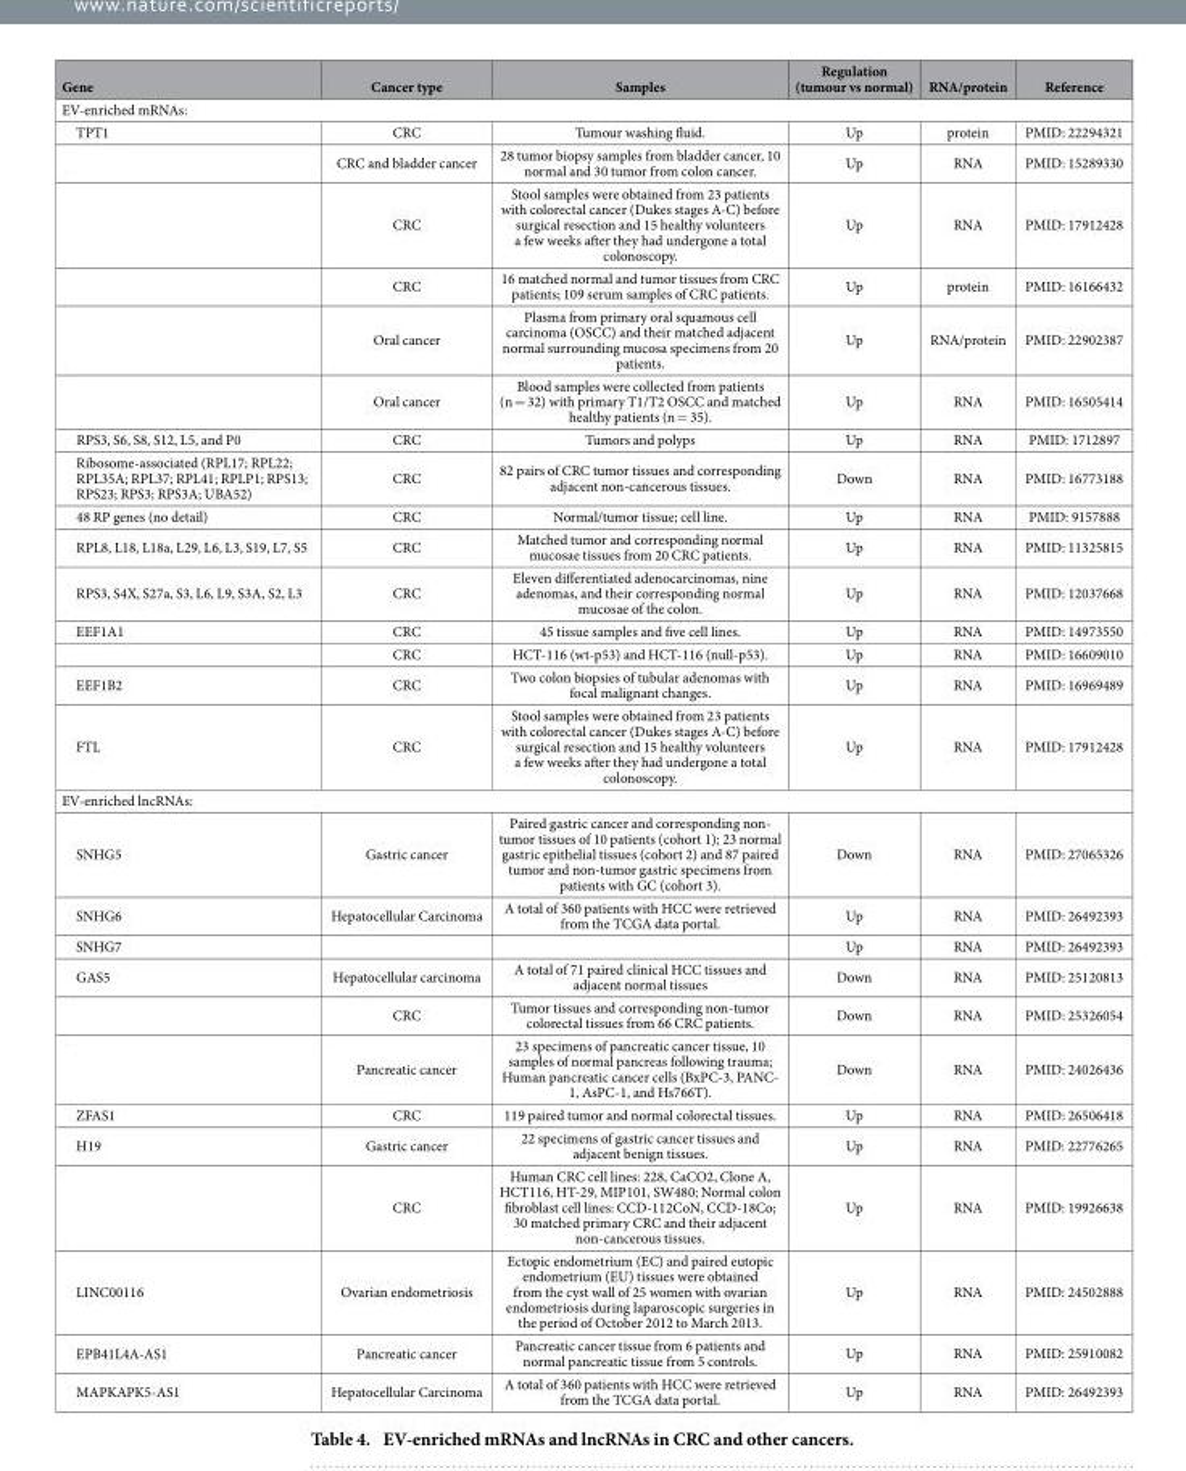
<table><thead><tr><td>Gene</td><td>Cancer type</td><td>Samples</td><td>Regulation (tumour vs normal)</td><td>RNA/protein</td><td>Reference</td></tr></thead><tbody><tr><td colspan="6">EV-enriched mRNAs:</td></tr><tr><td rowspan="6">TPT1</td><td>CRC</td><td>Tumour washing fluid.</td><td>Up</td><td>protein</td><td>PMID: 22294321</td></tr><tr><td>CRC and bladder cancer</td><td>28 tumor biopsy samples from bladder cancer, 10 normal and 30 tumor from colon cancer.</td><td>Up</td><td>RNA</td><td>PMID: 15289330</td></tr><tr><td>CRC</td><td>Stool samples were obtained from 23 patients with colorectal cancer (Dukes stages A-C) before surgical resection and 15 healthy volunteers a few weeks after they had undergone a total colonoscopy.</td><td>Up</td><td>RNA</td><td>PMID: 17912428</td></tr><tr><td>CRC</td><td>16 matched normal and tumor tissues from CRC patients; 109 serum samples of CRC patients.</td><td>Up</td><td>protein</td><td>PMID: 16166432</td></tr><tr><td>Oral cancer</td><td>Plasma from primary oral squamous cell carcinoma (OSCC) and their matched adjacent normal surrounding mucosa specimens from 20 patients.</td><td>Up</td><td>RNA/protein</td><td>PMID: 22902387</td></tr><tr><td>Oral cancer</td><td>Blood samples were collected from patients (n = 32) with primary T1/T2 OSCC and matched healthy patients (n = 35).</td><td>Up</td><td>RNA</td><td>PMID: 16505414</td></tr><tr><td>RPS3, S6, S8, S12, L5, and P0</td><td>CRC</td><td>Tumors and polyps</td><td>Up</td><td>RNA</td><td>PMID: 1712897</td></tr><tr><td>Ribosome-associated (RPL17; RPL22; RPL35A; RPL37; RPL41; RPLP1; RPS13; RPS23; RPS3; RPS3A; UBA52)</td><td>CRC</td><td>82 pairs of CRC tumor tissues and corresponding adjacent non-cancerous tissues.</td><td>Down</td><td>RNA</td><td>PMID: 16773188</td></tr><tr><td>48 RP genes (no detail)</td><td>CRC</td><td>Normal/tumor tissue; cell line.</td><td>Up</td><td>RNA</td><td>PMID: 9157888</td></tr><tr><td>RPL8, L18, L18a, L29, L6, L3, S19, L7, S5</td><td>CRC</td><td>Matched tumor and corresponding normal mucosae tissues from 20 CRC patients.</td><td>Up</td><td>RNA</td><td>PMID: 11325815</td></tr><tr><td>RPS3, S4X, S27a, S3, L6, L9, S3A, S2, L3</td><td>CRC</td><td>Eleven differentiated adenocarcinomas, nine adenomas, and their corresponding normal mucosae of the colon.</td><td>Up</td><td>RNA</td><td>PMID: 12037668</td></tr><tr><td rowspan="2">EEF1A1</td><td>CRC</td><td>45 tissue samples and five cell lines.</td><td>Up</td><td>RNA</td><td>PMID: 14973550</td></tr><tr><td>CRC</td><td>HCT-116 (wt-p53) and HCT-116 (null-p53).</td><td>Up</td><td>RNA</td><td>PMID: 16609010</td></tr><tr><td>EEF1B2</td><td>CRC</td><td>Two colon biopsies of tubular adenomas with focal malignant changes.</td><td>Up</td><td>RNA</td><td>PMID: 16969489</td></tr><tr><td>FTL</td><td>CRC</td><td>Stool samples were obtained from 23 patients with colorectal cancer (Dukes stages A-C) before surgical resection and 15 healthy volunteers a few weeks after they had undergone a total colonoscopy.</td><td>Up</td><td>RNA</td><td>PMID: 17912428</td></tr><tr><td colspan="6">EV-enriched lncRNAs:</td></tr><tr><td>SNHG5</td><td>Gastric cancer</td><td>Paired gastric cancer and corresponding non- tumor tissues of 10 patients (cohort 1); 23 normal gastric epithelial tissues (cohort 2) and 87 paired tumor and non-tumor gastric specimens from patients with GC (cohort 3).</td><td>Down</td><td>RNA</td><td>PMID: 27065326</td></tr><tr><td>SNHG6</td><td>Hepatocellular Carcinoma</td><td>A total of 360 patients with HCC were retrieved from the TCGA data portal.</td><td>Up</td><td>RNA</td><td>PMID: 26492393</td></tr><tr><td>SNHG7</td><td></td><td></td><td>Up</td><td>RNA</td><td>PMID: 26492393</td></tr><tr><td rowspan="3">GAS5</td><td>Hepatocellular carcinoma</td><td>A total of 71 paired clinical HCC tissues and adjacent normal tissues</td><td>Down</td><td>RNA</td><td>PMID: 25120813</td></tr><tr><td>CRC</td><td>Tumor tissues and corresponding non-tumor colorectal tissues from 66 CRC patients.</td><td>Down</td><td>RNA</td><td>PMID: 25326054</td></tr><tr><td>Pancreatic cancer</td><td>23 specimens of pancreatic cancer tissue, 10 samples of normal pancreas following trauma; Human pancreatic cancer cells (BxPC-3, PANC- 1, AsPC-1, and Hs766T).</td><td>Down</td><td>RNA</td><td>PMID: 24026436</td></tr><tr><td>ZFAS1</td><td>CRC</td><td>119 paired tumor and normal colorectal tissues.</td><td>Up</td><td>RNA</td><td>PMID: 26506418</td></tr><tr><td rowspan="2">H19</td><td>Gastric cancer</td><td>22 specimens of gastric cancer tissues and adjacent benign tissues.</td><td>Up</td><td>RNA</td><td>PMID: 22776265</td></tr><tr><td>CRC</td><td>Human CRC cell lines: 228, CaCO2, Clone A, HCT116, HT-29, MIP101, SW480; Normal colon fibroblast cell lines: CCD-112CoN, CCD-18Co; 30 matched primary CRC and their adjacent non-cancerous tissues.</td><td>Up</td><td>RNA</td><td>PMID: 19926638</td></tr><tr><td>LINC00116</td><td>Ovarian endometriosis</td><td>Ectopic endometrium (EC) and paired eutopic endometrium (EU) tissues were obtained from the cyst wall of 25 women with ovarian endometriosis during laparoscopic surgeries in the period of October 2012 to March 2013.</td><td>Up</td><td>RNA</td><td>PMID: 24502888</td></tr><tr><td>EPB41L4A-AS1</td><td>Pancreatic cancer</td><td>Pancreatic cancer tissue from 6 patients and normal pancreatic tissue from 5 controls.</td><td>Up</td><td>RNA</td><td>PMID: 25910082</td></tr><tr><td>MAPKAPK5-AS1</td><td>Hepatocellular Carcinoma</td><td>A total of 360 patients with HCC were retrieved from the TCGA data portal.</td><td>Up</td><td>RNA</td><td>PMID: 26492393</td></tr></tbody></table>